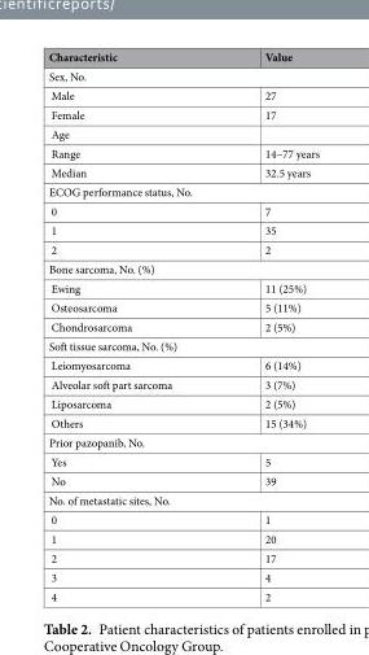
<table><thead><tr><td>Characteristic</td><td>Value</td></tr></thead><tbody><tr><td colspan="2">Sex, No.</td></tr><tr><td>Male</td><td>27</td></tr><tr><td>Female</td><td>17</td></tr><tr><td colspan="2">Age</td></tr><tr><td>Range</td><td>14–77 years</td></tr><tr><td>Median</td><td>32.5 years</td></tr><tr><td colspan="2">ECOG performance status, No.</td></tr><tr><td>0</td><td>7</td></tr><tr><td>1</td><td>35</td></tr><tr><td>2</td><td>2</td></tr><tr><td colspan="2">Bone sarcoma, No. (%)</td></tr><tr><td>Ewing</td><td>11 (25%)</td></tr><tr><td>Osteosarcoma</td><td>5 (11%)</td></tr><tr><td>Chondrosarcoma</td><td>2 (5%)</td></tr><tr><td colspan="2">Soft tissue sarcoma, No. (%)</td></tr><tr><td>Leiomyosarcoma</td><td>6 (14%)</td></tr><tr><td>Alveolar soft part sarcoma</td><td>3 (7%)</td></tr><tr><td>Liposarcoma</td><td>2 (5%)</td></tr><tr><td>Others</td><td>15 (34%)</td></tr><tr><td colspan="2">Prior pazopanib, No.</td></tr><tr><td>Yes</td><td>5</td></tr><tr><td>No</td><td>39</td></tr><tr><td colspan="2">No. of metastatic sites, No.</td></tr><tr><td>0</td><td>1</td></tr><tr><td>1</td><td>20</td></tr><tr><td>2</td><td>17</td></tr><tr><td>3</td><td>4</td></tr><tr><td>4</td><td>2</td></tr></tbody></table>